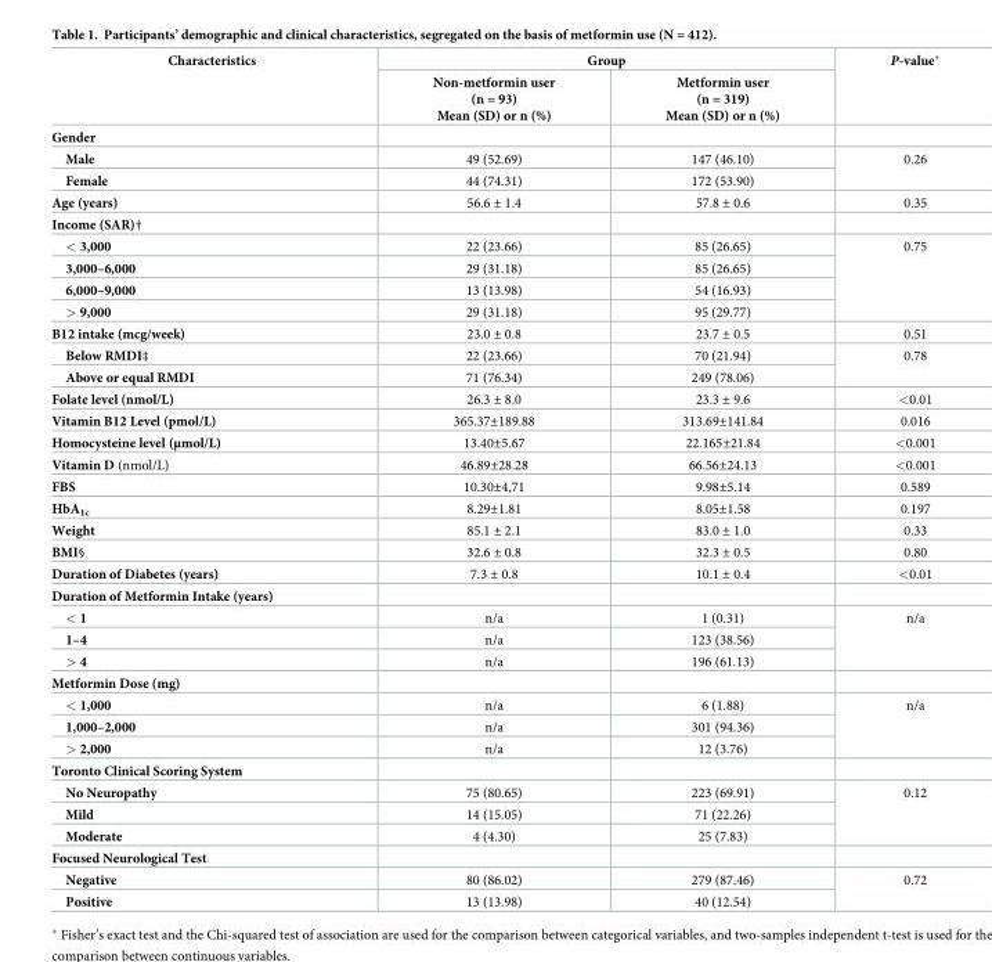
<table><thead><tr><td rowspan="2">Characteristics</td><td colspan="2">Group</td><td rowspan="2">P-value*</td></tr><tr><td>Non-metformin user (n = 93) Mean (SD) or n (%)</td><td>Metformin user (n = 319) Mean (SD) or n (%)</td></tr></thead><tbody><tr><td colspan="4">Gender</td></tr><tr><td>Male</td><td>49 (52.69)</td><td>147 (46.10)</td><td rowspan="2">0.26</td></tr><tr><td>Female</td><td>44 (74.31)</td><td>172 (53.90)</td></tr><tr><td>Age (years)</td><td>56.6 ± 1.4</td><td>57.8 ± 0.6</td><td>0.35</td></tr><tr><td colspan="4">Income (SAR)†</td></tr><tr><td>&lt; 3,000</td><td>22 (23.66)</td><td>85 (26.65)</td><td rowspan="4">0.75</td></tr><tr><td>3,000–6,000</td><td>29 (31.18)</td><td>85 (26.65)</td></tr><tr><td>6,000–9,000</td><td>13 (13.98)</td><td>54 (16.93)</td></tr><tr><td>&gt; 9,000</td><td>29 (31.18)</td><td>95 (29.77)</td></tr><tr><td>B12 intake (mcg/week)</td><td>23.0 ± 0.8</td><td>23.7 ± 0.5</td><td>0.51</td></tr><tr><td>Below RMDI‡</td><td>22 (23.66)</td><td>70 (21.94)</td><td rowspan="2">0.78</td></tr><tr><td>Above or equal RMDI</td><td>71 (76.34)</td><td>249 (78.06)</td></tr><tr><td>Folate level (nmol/L)</td><td>26.3 ± 8.0</td><td>23.3 ± 9.6</td><td>&lt;0.01</td></tr><tr><td>Vitamin B12 Level (pmol/L)</td><td>365.37±189.88</td><td>313.69±141.84</td><td>0.016</td></tr><tr><td>Homocysteine level (μmol/L)</td><td>13.40±5.67</td><td>22.165±21.84</td><td>&lt;0.001</td></tr><tr><td>Vitamin D (nmol/L)</td><td>46.89±28.28</td><td>66.56±24.13</td><td>&lt;0.001</td></tr><tr><td>FBS</td><td>10.30±4,71</td><td>9.98±5.14</td><td>0.589</td></tr><tr><td>HbA<sub>1c</sub></td><td>8.29±1.81</td><td>8.05±1.58</td><td>0.197</td></tr><tr><td>Weight</td><td>85.1 ± 2.1</td><td>83.0 ± 1.0</td><td>0.33</td></tr><tr><td>BMI§</td><td>32.6 ± 0.8</td><td>32.3 ± 0.5</td><td>0.80</td></tr><tr><td>Duration of Diabetes (years)</td><td>7.3 ± 0.8</td><td>10.1 ± 0.4</td><td>&lt;0.01</td></tr><tr><td colspan="4">Duration of Metformin Intake (years)</td></tr><tr><td>&lt; 1</td><td>n/a</td><td>1 (0.31)</td><td rowspan="3">n/a</td></tr><tr><td>1–4</td><td>n/a</td><td>123 (38.56)</td></tr><tr><td>&gt; 4</td><td>n/a</td><td>196 (61.13)</td></tr><tr><td colspan="4">Metformin Dose (mg)</td></tr><tr><td>&lt; 1,000</td><td>n/a</td><td>6 (1.88)</td><td rowspan="3">n/a</td></tr><tr><td>1,000–2,000</td><td>n/a</td><td>301 (94.36)</td></tr><tr><td>&gt; 2,000</td><td>n/a</td><td>12 (3.76)</td></tr><tr><td colspan="4">Toronto Clinical Scoring System</td></tr><tr><td>No Neuropathy</td><td>75 (80.65)</td><td>223 (69.91)</td><td rowspan="3">0.12</td></tr><tr><td>Mild</td><td>14 (15.05)</td><td>71 (22.26)</td></tr><tr><td>Moderate</td><td>4 (4.30)</td><td>25 (7.83)</td></tr><tr><td colspan="4">Focused Neurological Test</td></tr><tr><td>Negative</td><td>80 (86.02)</td><td>279 (87.46)</td><td rowspan="2">0.72</td></tr><tr><td>Positive</td><td>13 (13.98)</td><td>40 (12.54)</td></tr></tbody></table>